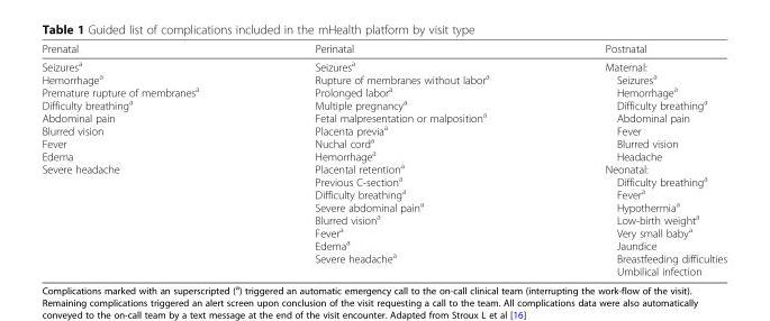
<table><thead><tr><td>Prenatal</td><td>Perinatal</td><td>Postnatal</td></tr></thead><tbody><tr><td>Seizures<sup>a</sup> Hemorrhage<sup>a</sup> Premature rupture of membranes<sup>a</sup> Difficulty breathing<sup>a</sup> Abdominal pain Blurred vision Fever Edema Severe headache</td><td>Seizures<sup>a</sup> Rupture of membranes without labor<sup>a</sup> Prolonged labor<sup>a</sup> Multiple pregnancy<sup>a</sup> Fetal malpresentation or malposition<sup>a</sup> Placenta previa<sup>a</sup> Nuchal cord<sup>a</sup> Hemorrhage<sup>a</sup> Placental retention<sup>a</sup> Previous C-section<sup>a</sup> Difficulty breathing<sup>a</sup> Severe abdominal pain<sup>a</sup> Blurred vision<sup>a</sup> Fever<sup>a</sup> Edema<sup>a</sup> Severe headache<sup>a</sup></td><td>Maternal: Seizures<sup>a</sup> Hemorrhage<sup>a</sup> Difficulty breathing<sup>a</sup> Abdominal pain Fever Blurred vision Headache Neonatal: Difficulty breathing<sup>a</sup> Fever<sup>a</sup> Hypothermia<sup>a</sup> Low-birth weight<sup>a</sup> Very small baby<sup>a</sup> Jaundice Breastfeeding difficulties Umbilical infection</td></tr></tbody></table>